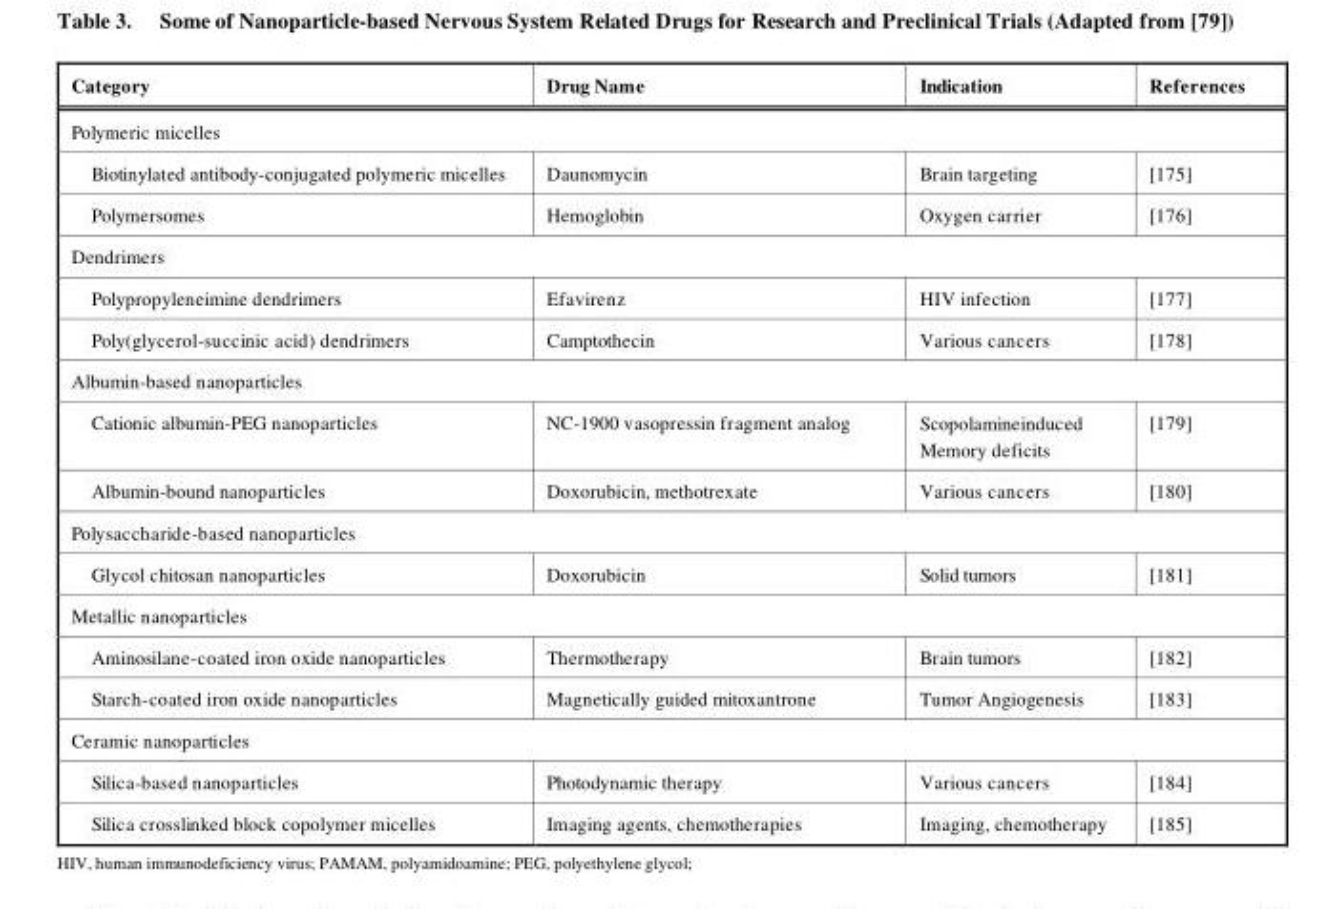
<table><thead><tr><td>Category</td><td>Drug Name</td><td>Indication</td><td>References</td></tr></thead><tbody><tr><td colspan="4">Polymeric micelles</td></tr><tr><td>Biotinylated antibody-conjugated polymeric micelles</td><td>Daunomycin</td><td>Brain targeting</td><td>[175]</td></tr><tr><td>Polymersomes</td><td>Hemoglobin</td><td>Oxygen carrier</td><td>[176]</td></tr><tr><td colspan="4">Dendrimers</td></tr><tr><td>Polypropyleneimine dendrimers</td><td>Efavirenz</td><td>HIV infection</td><td>[177]</td></tr><tr><td>Poly(glycerol-succinic acid) dendrimers</td><td>Camptothecin</td><td>Various cancers</td><td>[178]</td></tr><tr><td colspan="4">Albumin-based nanoparticles</td></tr><tr><td>Cationic albumin-PEG nanoparticles</td><td>NC-1900 vasopressin fragment analog</td><td>Scopolamineinduced Memory deficits</td><td>[179]</td></tr><tr><td>Albumin-bound nanoparticles</td><td>Doxorubicin, methotrexate</td><td>Various cancers</td><td>[180]</td></tr><tr><td colspan="4">Polysaccharide-based nanoparticles</td></tr><tr><td>Glycol chitosan nanoparticles</td><td>Doxorubicin</td><td>Solid tumors</td><td>[181]</td></tr><tr><td colspan="4">Metallic nanoparticles</td></tr><tr><td>Aminosilane-coated iron oxide nanoparticles</td><td>Thermotherapy</td><td>Brain tumors</td><td>[182]</td></tr><tr><td>Starch-coated iron oxide nanoparticles</td><td>Magnetically guided mitoxantrone</td><td>Tumor Angiogenesis</td><td>[183]</td></tr><tr><td colspan="4">Ceramic nanoparticles</td></tr><tr><td>Silica-based nanoparticles</td><td>Photodynamic therapy</td><td>Various cancers</td><td>[184]</td></tr><tr><td>Silica crosslinked block copolymer micelles</td><td>Imaging agents, chemotherapies</td><td>Imaging, chemotherapy</td><td>[185]</td></tr></tbody></table>